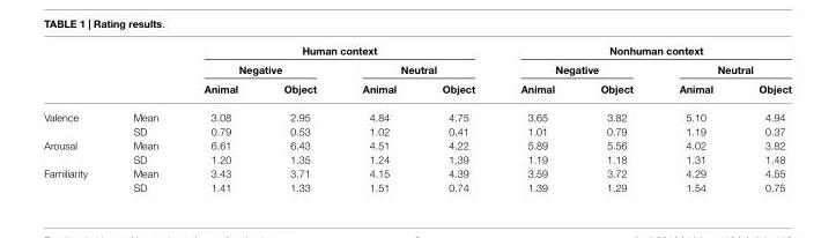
<table><thead><tr><td rowspan="3"></td><td rowspan="3"></td><td colspan="4">Human context</td><td colspan="4">Nonhuman context</td></tr><tr><td colspan="2">Negative</td><td colspan="2">Neutral</td><td colspan="2">Negative</td><td colspan="2">Neutral</td></tr><tr><td>Animal</td><td>Object</td><td>Animal</td><td>Object</td><td>Animal</td><td>Object</td><td>Animal</td><td>Object</td></tr></thead><tbody><tr><td rowspan="2">Valence</td><td>Mean</td><td>3.08</td><td>2.95</td><td>4.84</td><td>4.75</td><td>3.65</td><td>3.82</td><td>5.10</td><td>4.94</td></tr><tr><td>SD</td><td>0.79</td><td>0.53</td><td>1.02</td><td>0.41</td><td>1.01</td><td>0.79</td><td>1.19</td><td>0.37</td></tr><tr><td rowspan="2">Arousal</td><td>Mean</td><td>6.61</td><td>6.43</td><td>4.51</td><td>4.22</td><td>5.89</td><td>5.56</td><td>4.02</td><td>3.82</td></tr><tr><td>SD</td><td>1.20</td><td>1.35</td><td>1.24</td><td>1.39</td><td>1.19</td><td>1.18</td><td>1.31</td><td>1.48</td></tr><tr><td rowspan="2">Familiarity</td><td>Mean</td><td>3.43</td><td>3.71</td><td>4.15</td><td>4.39</td><td>3.59</td><td>3.72</td><td>4.29</td><td>4.55</td></tr><tr><td>SD</td><td>1.41</td><td>1.33</td><td>1.51</td><td>0.74</td><td>1.39</td><td>1.29</td><td>1.54</td><td>0.75</td></tr></tbody></table>